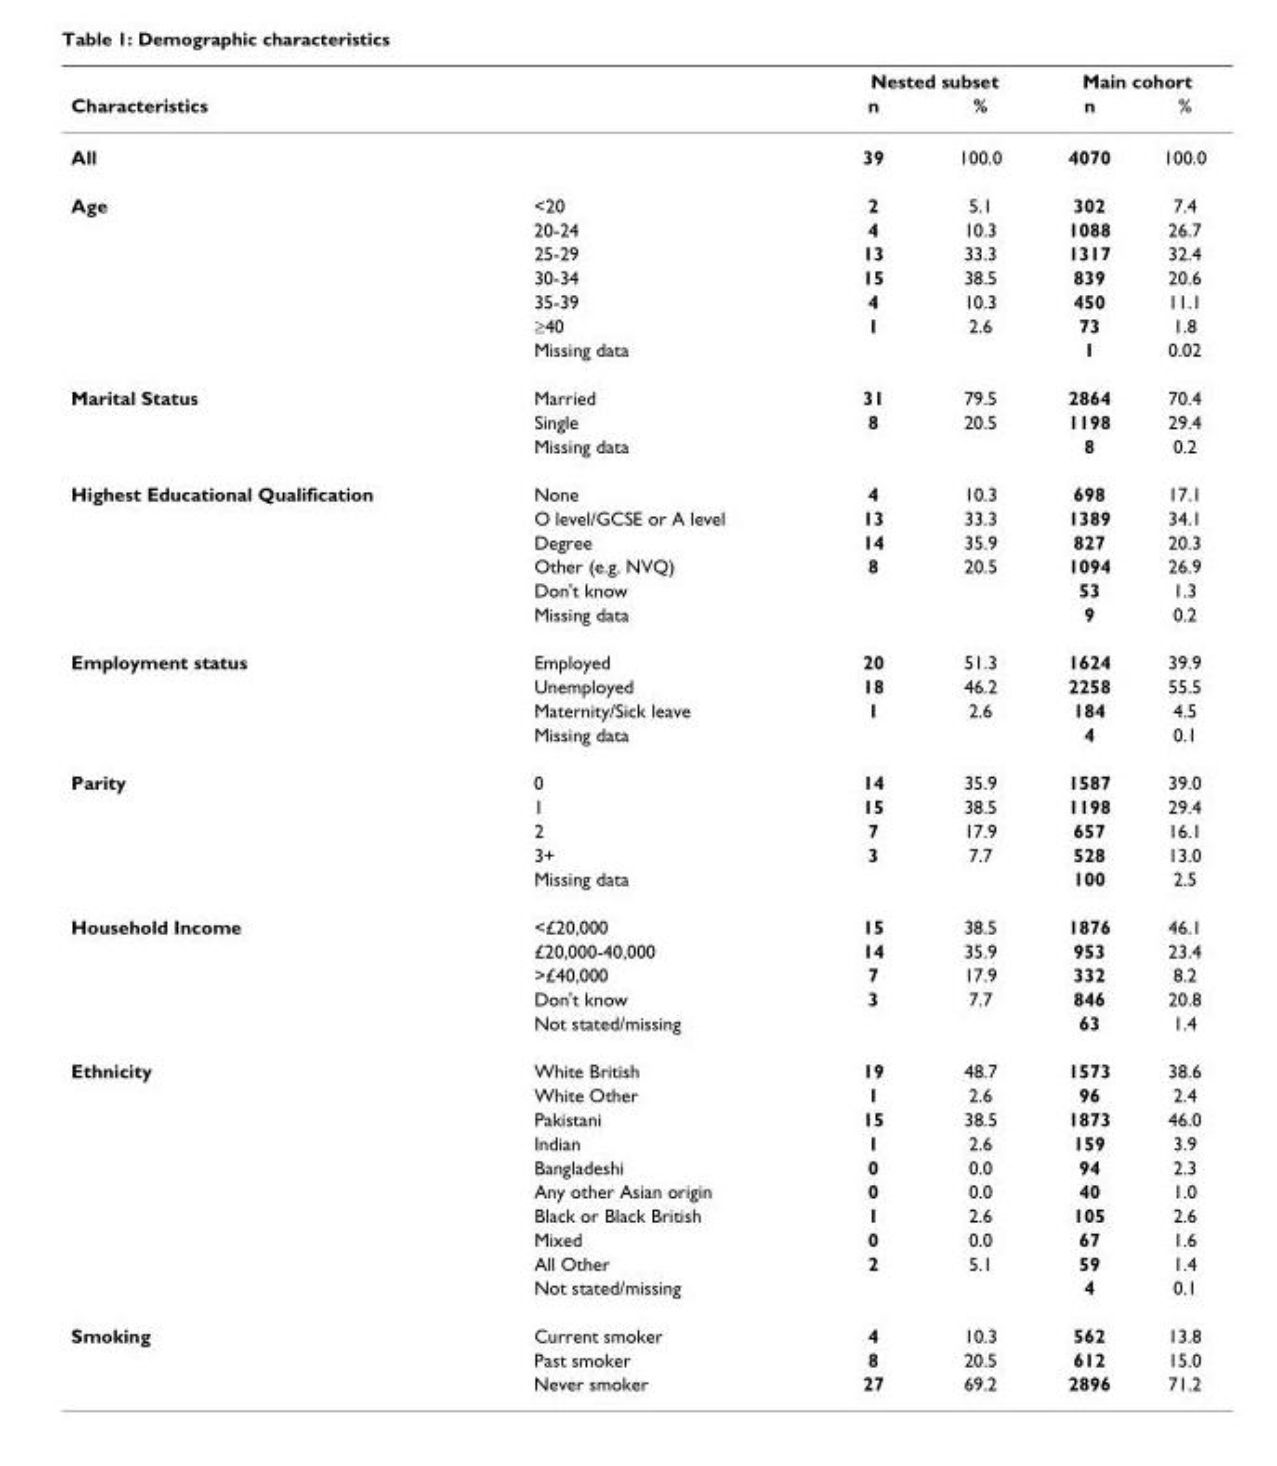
<table><thead><tr><td rowspan="2">Characteristics</td><td rowspan="2"></td><td colspan="2">Nested subset</td><td colspan="2">Main cohort</td></tr><tr><td>n</td><td>%</td><td>n</td><td>%</td></tr></thead><tbody><tr><td>All</td><td></td><td>39</td><td>100.0</td><td>4070</td><td>100.0</td></tr><tr><td rowspan="7">Age</td><td>&lt;20</td><td>2</td><td>5.1</td><td>302</td><td>7.4</td></tr><tr><td>20-24</td><td>4</td><td>10.3</td><td>1088</td><td>26.7</td></tr><tr><td>25-29</td><td>13</td><td>33.3</td><td>1317</td><td>32.4</td></tr><tr><td>30-34</td><td>15</td><td>38.5</td><td>839</td><td>20.6</td></tr><tr><td>35-39</td><td>4</td><td>10.3</td><td>450</td><td>11.1</td></tr><tr><td>≥40</td><td>1</td><td>2.6</td><td>73</td><td>1.8</td></tr><tr><td>Missing data</td><td></td><td></td><td>1</td><td>0.02</td></tr><tr><td rowspan="3">Marital Status</td><td>Married</td><td>31</td><td>79.5</td><td>2864</td><td>70.4</td></tr><tr><td>Single</td><td>8</td><td>20.5</td><td>1198</td><td>29.4</td></tr><tr><td>Missing data</td><td></td><td></td><td>8</td><td>0.2</td></tr><tr><td rowspan="6">Highest Educational Qualification</td><td>None</td><td>4</td><td>10.3</td><td>698</td><td>17.1</td></tr><tr><td>O level/GCSE or A level</td><td>13</td><td>33.3</td><td>1389</td><td>34.1</td></tr><tr><td>Degree</td><td>14</td><td>35.9</td><td>827</td><td>20.3</td></tr><tr><td>Other (e.g. NVQ)</td><td>8</td><td>20.5</td><td>1094</td><td>26.9</td></tr><tr><td>Don&#x27;t know</td><td></td><td></td><td>53</td><td>1.3</td></tr><tr><td>Missing data</td><td></td><td></td><td>9</td><td>0.2</td></tr><tr><td rowspan="4">Employment status</td><td>Employed</td><td>20</td><td>51.3</td><td>1624</td><td>39.9</td></tr><tr><td>Unemployed</td><td>18</td><td>46.2</td><td>2258</td><td>55.5</td></tr><tr><td>Maternity/Sick leave</td><td>1</td><td>2.6</td><td>184</td><td>4.5</td></tr><tr><td>Missing data</td><td></td><td></td><td>4</td><td>0.1</td></tr><tr><td rowspan="5">Parity</td><td>0</td><td>14</td><td>35.9</td><td>1587</td><td>39.0</td></tr><tr><td>1</td><td>15</td><td>38.5</td><td>1198</td><td>29.4</td></tr><tr><td>2</td><td>7</td><td>17.9</td><td>657</td><td>16.1</td></tr><tr><td>3+</td><td>3</td><td>7.7</td><td>528</td><td>13.0</td></tr><tr><td>Missing data</td><td></td><td></td><td>100</td><td>2.5</td></tr><tr><td rowspan="5">Household Income</td><td>&lt;£20,000</td><td>15</td><td>38.5</td><td>1876</td><td>46.1</td></tr><tr><td>£20,000-40,000</td><td>14</td><td>35.9</td><td>953</td><td>23.4</td></tr><tr><td>&gt;£40,000</td><td>7</td><td>17.9</td><td>332</td><td>8.2</td></tr><tr><td>Don&#x27;t know</td><td>3</td><td>7.7</td><td>846</td><td>20.8</td></tr><tr><td>Not stated/missing</td><td></td><td></td><td>63</td><td>1.4</td></tr><tr><td rowspan="10">Ethnicity</td><td>White British</td><td>19</td><td>48.7</td><td>1573</td><td>38.6</td></tr><tr><td>White Other</td><td>1</td><td>2.6</td><td>96</td><td>2.4</td></tr><tr><td>Pakistani</td><td>15</td><td>38.5</td><td>1873</td><td>46.0</td></tr><tr><td>Indian</td><td>1</td><td>2.6</td><td>159</td><td>3.9</td></tr><tr><td>Bangladeshi</td><td>0</td><td>0.0</td><td>94</td><td>2.3</td></tr><tr><td>Any other Asian origin</td><td>0</td><td>0.0</td><td>40</td><td>1.0</td></tr><tr><td>Black or Black British</td><td>1</td><td>2.6</td><td>105</td><td>2.6</td></tr><tr><td>Mixed</td><td>0</td><td>0.0</td><td>67</td><td>1.6</td></tr><tr><td>All Other</td><td>2</td><td>5.1</td><td>59</td><td>1.4</td></tr><tr><td>Not stated/missing</td><td></td><td></td><td>4</td><td>0.1</td></tr><tr><td rowspan="3">Smoking</td><td>Current smoker</td><td>4</td><td>10.3</td><td>562</td><td>13.8</td></tr><tr><td>Past smoker</td><td>8</td><td>20.5</td><td>612</td><td>15.0</td></tr><tr><td>Never smoker</td><td>27</td><td>69.2</td><td>2896</td><td>71.2</td></tr></tbody></table>